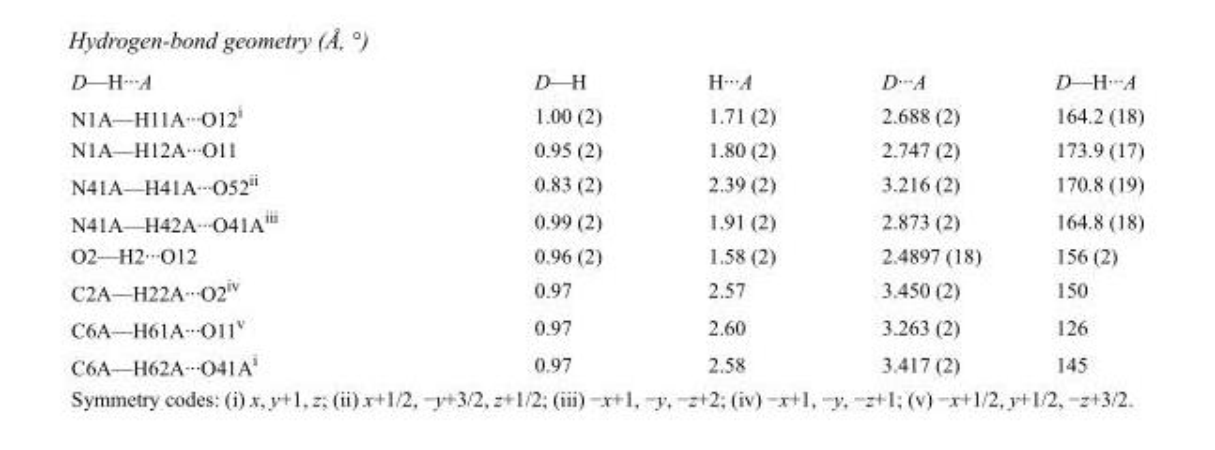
<table><tbody><tr><td>D—H···A</td><td>D—H</td><td>H···A</td><td>D···A</td><td>D—H···A</td></tr><tr><td>N1A—H11A···O12<sup>i</sup></td><td>1.00 (2)</td><td>1.71 (2)</td><td>2.688 (2)</td><td>164.2 (18)</td></tr><tr><td>N1A—H12A···O11</td><td>0.95 (2)</td><td>1.80 (2)</td><td>2.747 (2)</td><td>173.9 (17)</td></tr><tr><td>N41A—H41A···O52<sup>ii</sup></td><td>0.83 (2)</td><td>2.39 (2)</td><td>3.216 (2)</td><td>170.8 (19)</td></tr><tr><td>N41A—H42A···O41A<sup>iii</sup></td><td>0.99 (2)</td><td>1.91 (2)</td><td>2.873 (2)</td><td>164.8 (18)</td></tr><tr><td>O2—H2···O12</td><td>0.96 (2)</td><td>1.58 (2)</td><td>2.4897 (18)</td><td>156 (2)</td></tr><tr><td>C2A—H22A···O2<sup>iv</sup></td><td>0.97</td><td>2.57</td><td>3.450 (2)</td><td>150</td></tr><tr><td>C6A—H61A···O11<sup>v</sup></td><td>0.97</td><td>2.60</td><td>3.263 (2)</td><td>126</td></tr><tr><td>C6A—H62A···O41A<sup>i</sup></td><td>0.97</td><td>2.58</td><td>3.417 (2)</td><td>145</td></tr></tbody></table>